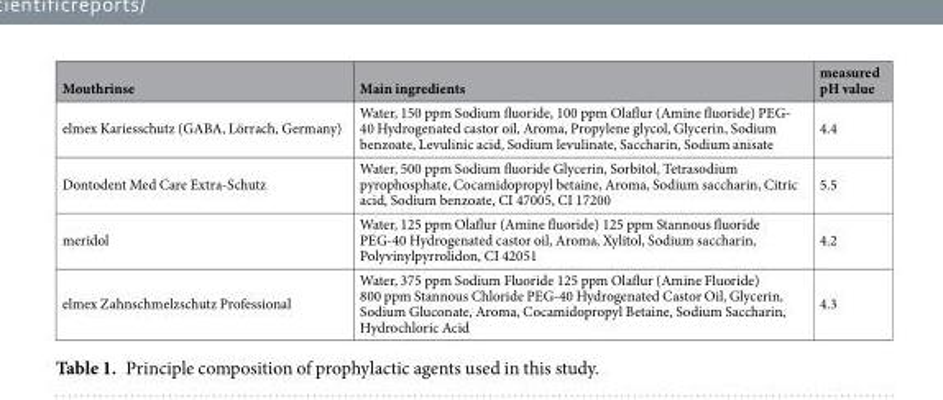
<table><thead><tr><td>Mouthrinse</td><td>Main ingredients</td><td>measured pH value</td></tr></thead><tbody><tr><td>elmex Kariesschutz (GABA, Lörrach, Germany)</td><td>Water, 150 ppm Sodium fluoride, 100 ppm Olaflur (Amine fluoride) PEG- 40 Hydrogenated castor oil, Aroma, Propylene glycol, Glycerin, Sodium benzoate, Levulinic acid, Sodium levulinate, Saccharin, Sodium anisate</td><td>4.4</td></tr><tr><td>Dontodent Med Care Extra-Schutz</td><td>Water, 500 ppm Sodium fluoride Glycerin, Sorbitol, Tetrasodium pyrophosphate, Cocamidopropyl betaine, Aroma, Sodium saccharin, Citric acid, Sodium benzoate, CI 47005, CI 17200</td><td>5.5</td></tr><tr><td>meridol</td><td>Water, 125 ppm Olaflur (Amine fluoride) 125 ppm Stannous fluoride PEG-40 Hydrogenated castor oil, Aroma, Xylitol, Sodium saccharin, Polyvinylpyrrolidon, CI 42051</td><td>4.2</td></tr><tr><td>elmex Zahnschmelzschutz Professional</td><td>Water, 375 ppm Sodium Fluoride 125 ppm Olaflur (Amine Fluoride) 800 ppm Stannous Chloride PEG-40 Hydrogenated Castor Oil, Glycerin, Sodium Gluconate, Aroma, Cocamidopropyl Betaine, Sodium Saccharin, Hydrochloric Acid</td><td>4.3</td></tr></tbody></table>